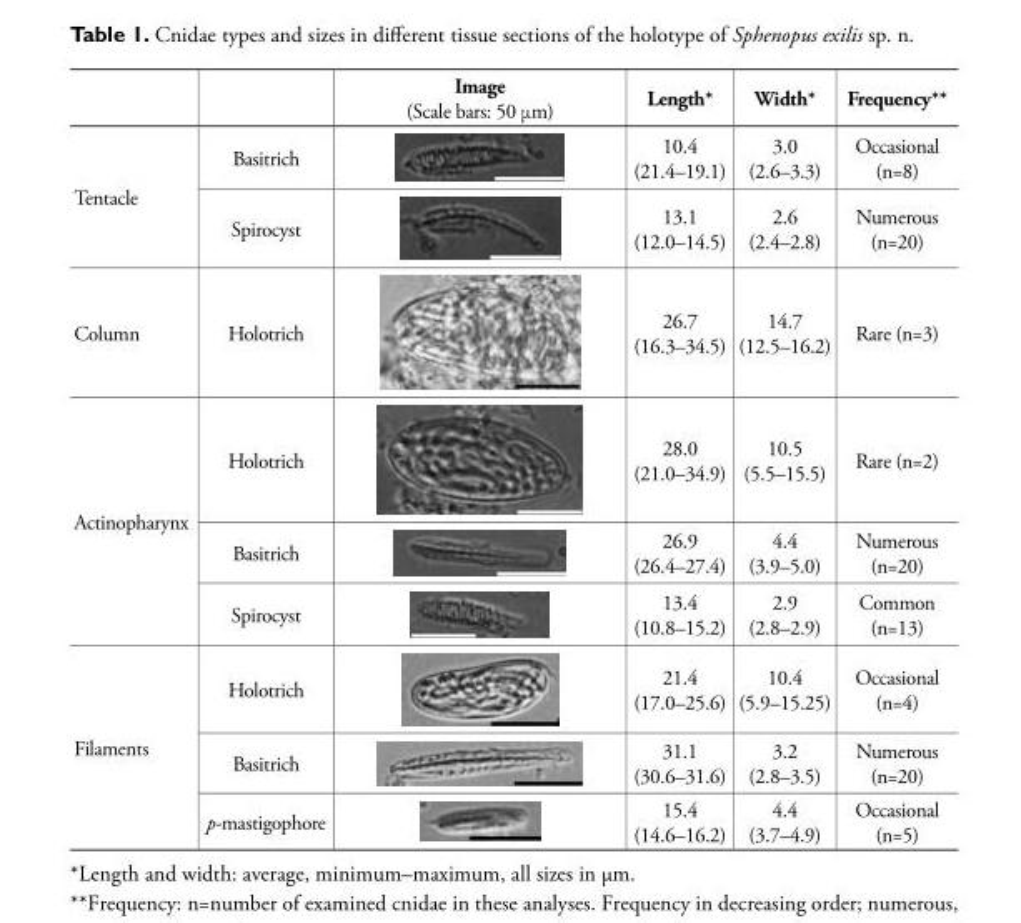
<table><thead><tr><td></td><td></td><td>Image (Scale bars: 50 μm)</td><td>Length*</td><td>Width*</td><td>Frequency**</td></tr></thead><tbody><tr><td rowspan="2">Tentacle</td><td>Basitrich</td><td></td><td>10.4 (21.4–19.1)</td><td>3.0 (2.6–3.3)</td><td>Occasional (n=8)</td></tr><tr><td>Spirocyst</td><td></td><td>13.1 (12.0–14.5)</td><td>2.6 (2.4–2.8)</td><td>Numerous (n=20)</td></tr><tr><td>Column</td><td>Holotrich</td><td></td><td>26.7 (16.3–34.5)</td><td>14.7 (12.5–16.2)</td><td>Rare (n=3)</td></tr><tr><td rowspan="3">Actinopharynx</td><td>Holotrich</td><td></td><td>28.0 (21.0–34.9)</td><td>10.5 (5.5–15.5)</td><td>Rare (n=2)</td></tr><tr><td>Basitrich</td><td></td><td>26.9 (26.4–27.4)</td><td>4.4 (3.9–5.0)</td><td>Numerous (n=20)</td></tr><tr><td>Spirocyst</td><td></td><td>13.4 (10.8–15.2)</td><td>2.9 (2.8–2.9)</td><td>Common (n=13)</td></tr><tr><td rowspan="3">Filaments</td><td>Holotrich</td><td></td><td>21.4 (17.0–25.6)</td><td>10.4 (5.9–15.25)</td><td>Occasional (n=4)</td></tr><tr><td>Basitrich</td><td></td><td>31.1 (30.6–31.6)</td><td>3.2 (2.8–3.5)</td><td>Numerous (n=20)</td></tr><tr><td>p-mastigophore</td><td></td><td>15.4 (14.6–16.2)</td><td>4.4 (3.7–4.9)</td><td>Occasional (n=5)</td></tr></tbody></table>